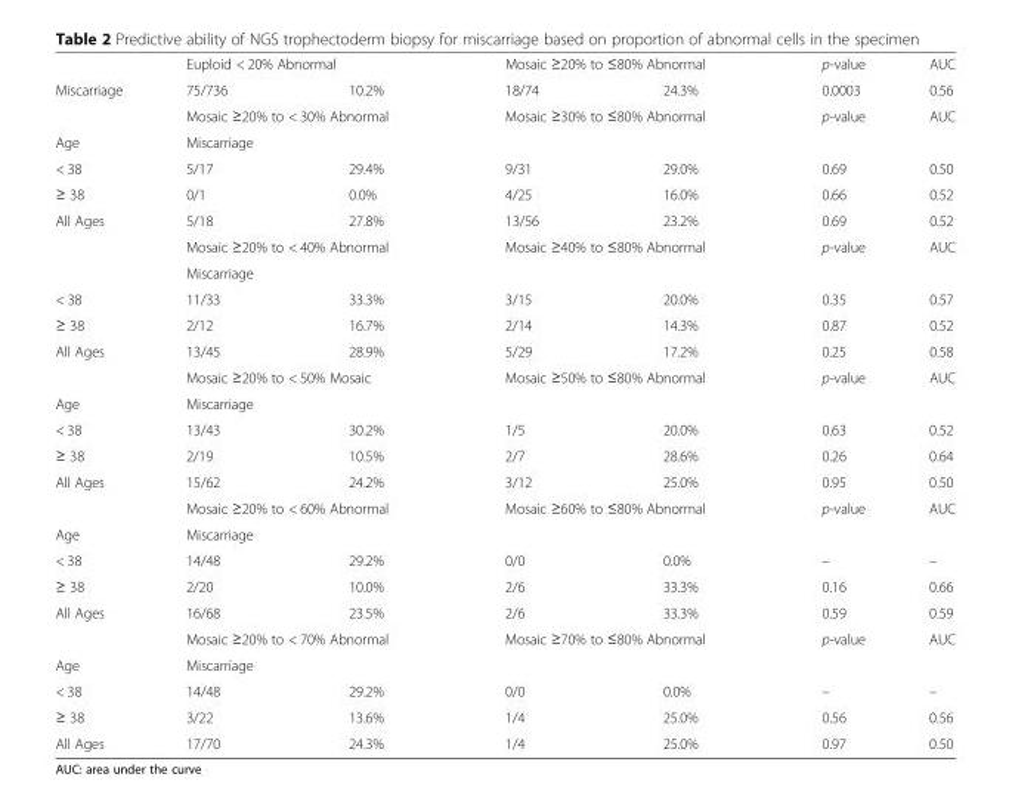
<table><thead><tr><td rowspan="2">Miscarriage</td><td colspan="2">Euploid &lt; 20% Abnormal</td><td colspan="2">Mosaic ≥20% to ≤80% Abnormal</td><td rowspan="2">p-value 0.0003</td><td rowspan="2">AUC 0.56</td></tr><tr><td>75/736</td><td>10.2%</td><td>18/74</td><td>24.3%</td></tr></thead><tbody><tr><td></td><td colspan="2">Mosaic ≥20% to &lt; 30% Abnormal</td><td colspan="2">Mosaic ≥30% to ≤80% Abnormal</td><td rowspan="2">p-value</td><td rowspan="2">AUC</td></tr><tr><td>Age</td><td colspan="4">Miscarriage</td></tr><tr><td>&lt; 38</td><td>5/17</td><td>29.4%</td><td>9/31</td><td>29.0%</td><td>0.69</td><td>0.50</td></tr><tr><td>≥ 38</td><td>0/1</td><td>0.0%</td><td>4/25</td><td>16.0%</td><td>0.66</td><td>0.52</td></tr><tr><td rowspan="3">All Ages</td><td>5/18</td><td>27.8%</td><td>13/56</td><td>23.2%</td><td>0.69</td><td>0.52</td></tr><tr><td colspan="2">Mosaic ≥20% to &lt; 40% Abnormal</td><td colspan="2">Mosaic ≥40% to ≤80% Abnormal</td><td>p-value</td><td>AUC</td></tr><tr><td colspan="4">Miscarriage</td><td></td><td></td></tr><tr><td>&lt; 38</td><td>11/33</td><td>33.3%</td><td>3/15</td><td>20.0%</td><td>0.35</td><td>0.57</td></tr><tr><td>≥ 38</td><td>2/12</td><td>16.7%</td><td>2/14</td><td>14.3%</td><td>0.87</td><td>0.52</td></tr><tr><td rowspan="2">All Ages</td><td>13/45</td><td>28.9%</td><td>5/29</td><td>17.2%</td><td>0.25</td><td>0.58</td></tr><tr><td colspan="2">Mosaic ≥20% to &lt; 50% Mosaic</td><td colspan="2">Mosaic ≥50% to ≤80% Abnormal</td><td rowspan="2">p-value</td><td rowspan="2">AUC</td></tr><tr><td>Age</td><td colspan="4">Miscarriage</td></tr><tr><td>&lt; 38</td><td>13/43</td><td>30.2%</td><td>1/5</td><td>20.0%</td><td>0.63</td><td>0.52</td></tr><tr><td>≥ 38</td><td>2/19</td><td>10.5%</td><td>2/7</td><td>28.6%</td><td>0.26</td><td>0.64</td></tr><tr><td rowspan="2">All Ages</td><td>15/62</td><td>24.2%</td><td>3/12</td><td>25.0%</td><td>0.95</td><td>0.50</td></tr><tr><td colspan="2">Mosaic ≥20% to &lt; 60% Abnormal</td><td colspan="2">Mosaic ≥60% to ≤80% Abnormal</td><td rowspan="2">p-value</td><td rowspan="2">AUC</td></tr><tr><td>Age</td><td colspan="4">Miscarriage</td></tr><tr><td>&lt; 38</td><td>14/48</td><td>29.2%</td><td>0/0</td><td>0.0%</td><td>–</td><td>–</td></tr><tr><td>≥ 38</td><td>2/20</td><td>10.0%</td><td>2/6</td><td>33.3%</td><td>0.16</td><td>0.66</td></tr><tr><td rowspan="2">All Ages</td><td>16/68</td><td>23.5%</td><td>2/6</td><td>33.3%</td><td>0.59</td><td>0.59</td></tr><tr><td colspan="2">Mosaic ≥20% to &lt; 70% Abnormal</td><td colspan="2">Mosaic ≥70% to ≤80% Abnormal</td><td rowspan="2">p-value</td><td rowspan="2">AUC</td></tr><tr><td>Age</td><td colspan="4">Miscarriage</td></tr><tr><td>&lt; 38</td><td>14/48</td><td>29.2%</td><td>0/0</td><td>0.0%</td><td>–</td><td>–</td></tr><tr><td>≥ 38</td><td>3/22</td><td>13.6%</td><td>1/4</td><td>25.0%</td><td>0.56</td><td>0.56</td></tr><tr><td>All Ages</td><td>17/70</td><td>24.3%</td><td>1/4</td><td>25.0%</td><td>0.97</td><td>0.50</td></tr></tbody></table>